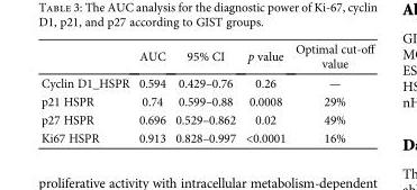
<table><thead><tr><td></td><td>AUC</td><td>95% CI</td><td>p value</td><td>Optimal cut-off value</td></tr></thead><tbody><tr><td>Cyclin D1_HSPR</td><td>0.594</td><td>0.429–0.76</td><td>0.26</td><td>—</td></tr><tr><td>p21 HSPR</td><td>0.74</td><td>0.599–0.88</td><td>0.0008</td><td>29%</td></tr><tr><td>p27 HSPR</td><td>0.696</td><td>0.529–0.862</td><td>0.02</td><td>49%</td></tr><tr><td>Ki67 HSPR</td><td>0.913</td><td>0.828–0.997</td><td>&lt;0.0001</td><td>16%</td></tr></tbody></table>